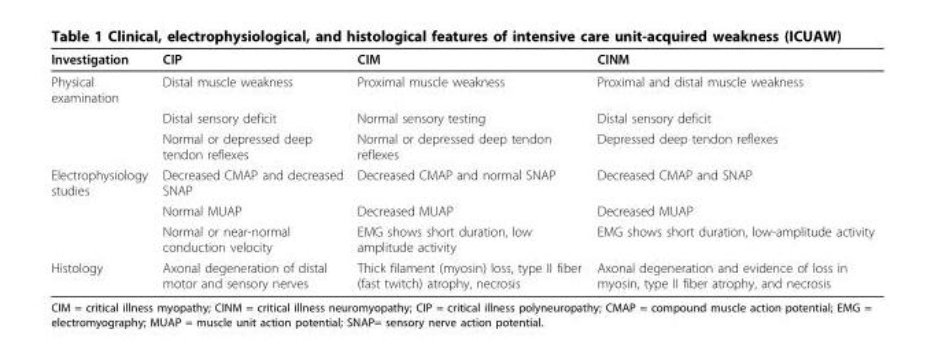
<table><thead><tr><td>Investigation</td><td>CIP</td><td>CIM</td><td>CINM</td></tr></thead><tbody><tr><td rowspan="3">Physical examination</td><td>Distal muscle weakness</td><td>Proximal muscle weakness</td><td>Proximal and distal muscle weakness</td></tr><tr><td>Distal sensory deficit</td><td>Normal sensory testing</td><td>Distal sensory deficit</td></tr><tr><td>Normal or depressed deep tendon reflexes</td><td>Normal or depressed deep tendon reflexes</td><td>Depressed deep tendon reflexes</td></tr><tr><td rowspan="3">Electrophysiology studies</td><td>Decreased CMAP and decreased SNAP</td><td>Decreased CMAP and normal SNAP</td><td>Decreased CMAP and SNAP</td></tr><tr><td>Normal MUAP</td><td>Decreased MUAP</td><td>Decreased MUAP</td></tr><tr><td>Normal or near-normal conduction velocity</td><td>EMG shows short duration, low amplitude activity</td><td>EMG shows short duration, low-amplitude activity</td></tr><tr><td>Histology</td><td>Axonal degeneration of distal motor and sensory nerves</td><td>Thick filament (myosin) loss, type II fiber (fast twitch) atrophy, necrosis</td><td>Axonal degeneration and evidence of loss in myosin, type II fiber atrophy, and necrosis</td></tr></tbody></table>